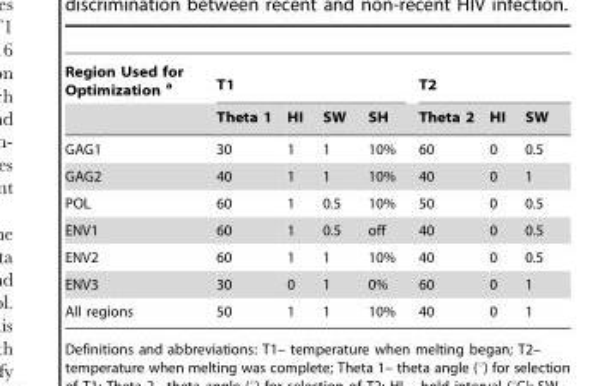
<table><thead><tr><td rowspan="2">Region Used for Optimization a</td><td colspan="4">T1</td><td colspan="3">T2</td></tr><tr><td>Theta 1</td><td>HI</td><td>SW</td><td>SH</td><td>Theta 2</td><td>HI</td><td>SW</td></tr></thead><tbody><tr><td>GAG1</td><td>30</td><td>1</td><td>1</td><td>10%</td><td>60</td><td>0</td><td>0.5</td></tr><tr><td>GAG2</td><td>40</td><td>1</td><td>1</td><td>10%</td><td>40</td><td>0</td><td>1</td></tr><tr><td>POL</td><td>60</td><td>1</td><td>0.5</td><td>10%</td><td>50</td><td>0</td><td>0.5</td></tr><tr><td>ENV1</td><td>60</td><td>1</td><td>0.5</td><td>off</td><td>40</td><td>0</td><td>0.5</td></tr><tr><td>ENV2</td><td>60</td><td>1</td><td>1</td><td>10%</td><td>40</td><td>0</td><td>0.5</td></tr><tr><td>ENV3</td><td>30</td><td>0</td><td>1</td><td>0%</td><td>60</td><td>0</td><td>1</td></tr><tr><td>All regions</td><td>50</td><td>1</td><td>1</td><td>10%</td><td>40</td><td>0</td><td>1</td></tr></tbody></table>